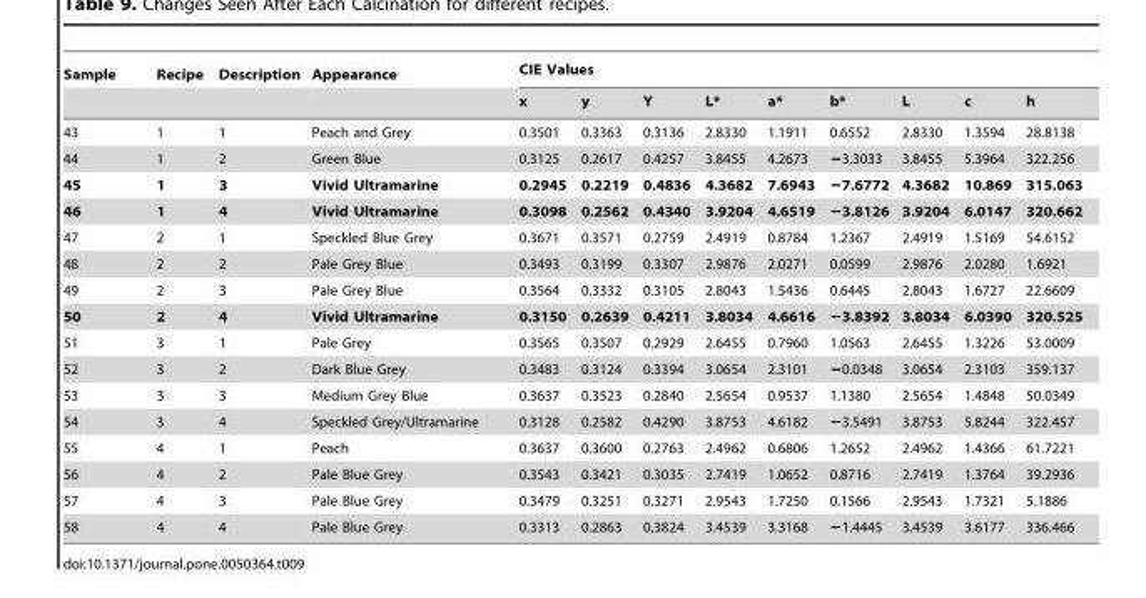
<table><thead><tr><td rowspan="2">Sample</td><td rowspan="2">Recipe</td><td rowspan="2">Description</td><td rowspan="2">Appearance</td><td colspan="9">CIE Values</td></tr><tr><td>x</td><td>y</td><td>Y</td><td>L*</td><td>a*</td><td>b*</td><td>L</td><td>c</td><td>h</td></tr></thead><tbody><tr><td>43</td><td>1</td><td>1</td><td>Peach and Grey</td><td>0.3501</td><td>0.3363</td><td>0.3136</td><td>2.8330</td><td>1.1911</td><td>0.6552</td><td>2.8330</td><td>1.3594</td><td>28.8138</td></tr><tr><td>44</td><td>1</td><td>2</td><td>Green Blue</td><td>0.3125</td><td>0.2617</td><td>0.4257</td><td>3.8455</td><td>4.2673</td><td>−3.3033</td><td>3.8455</td><td>5.3964</td><td>322.256</td></tr><tr><td>45</td><td>1</td><td>3</td><td>Vivid Ultramarine</td><td>0.2945</td><td>0.2219</td><td>0.4836</td><td>4.3682</td><td>7.6943</td><td>−7.6772</td><td>4.3682</td><td>10.869</td><td>315.063</td></tr><tr><td>46</td><td>1</td><td>4</td><td>Vivid Ultramarine</td><td>0.3098</td><td>0.2562</td><td>0.4340</td><td>3.9204</td><td>4.6519</td><td>−3.8126</td><td>3.9204</td><td>6.0147</td><td>320.662</td></tr><tr><td>47</td><td>2</td><td>1</td><td>Speckled Blue Grey</td><td>0.3671</td><td>0.3571</td><td>0.2759</td><td>2.4919</td><td>0.8784</td><td>1.2367</td><td>2.4919</td><td>1.5169</td><td>54.6152</td></tr><tr><td>48</td><td>2</td><td>2</td><td>Pale Grey Blue</td><td>0.3493</td><td>0.3199</td><td>0.3307</td><td>2.9876</td><td>2.0271</td><td>0.0599</td><td>2.9876</td><td>2.0280</td><td>1.6921</td></tr><tr><td>49</td><td>2</td><td>3</td><td>Pale Grey Blue</td><td>0.3564</td><td>0.3332</td><td>0.3105</td><td>2.8043</td><td>1.5436</td><td>0.6445</td><td>2.8043</td><td>1.6727</td><td>22.6609</td></tr><tr><td>50</td><td>2</td><td>4</td><td>Vivid Ultramarine</td><td>0.3150</td><td>0.2639</td><td>0.4211</td><td>3.8034</td><td>4.6616</td><td>−3.8392</td><td>3.8034</td><td>6.0390</td><td>320.525</td></tr><tr><td>51</td><td>3</td><td>1</td><td>Pale Grey</td><td>0.3565</td><td>0.3507</td><td>0.2929</td><td>2.6455</td><td>0.7960</td><td>1.0563</td><td>2.6455</td><td>1.3226</td><td>53.0009</td></tr><tr><td>52</td><td>3</td><td>2</td><td>Dark Blue Grey</td><td>0.3483</td><td>0.3124</td><td>0.3394</td><td>3.0654</td><td>2.3101</td><td>−0.0348</td><td>3.0654</td><td>2.3103</td><td>359.137</td></tr><tr><td>53</td><td>3</td><td>3</td><td>Medium Grey Blue</td><td>0.3637</td><td>0.3523</td><td>0.2840</td><td>2.5654</td><td>0.9537</td><td>1.1380</td><td>2.5654</td><td>1.4848</td><td>50.0349</td></tr><tr><td>54</td><td>3</td><td>4</td><td>Speckled Grey/Ultramarine</td><td>0.3128</td><td>0.2582</td><td>0.4290</td><td>3.8753</td><td>4.6182</td><td>−3.5491</td><td>3.8753</td><td>5.8244</td><td>322.457</td></tr><tr><td>55</td><td>4</td><td>1</td><td>Peach</td><td>0.3637</td><td>0.3600</td><td>0.2763</td><td>2.4962</td><td>0.6806</td><td>1.2652</td><td>2.4962</td><td>1.4366</td><td>61.7221</td></tr><tr><td>56</td><td>4</td><td>2</td><td>Pale Blue Grey</td><td>0.3543</td><td>0.3421</td><td>0.3035</td><td>2.7419</td><td>1.0652</td><td>0.8716</td><td>2.7419</td><td>1.3764</td><td>39.2936</td></tr><tr><td>57</td><td>4</td><td>3</td><td>Pale Blue Grey</td><td>0.3479</td><td>0.3251</td><td>0.3271</td><td>2.9543</td><td>1.7250</td><td>0.1566</td><td>2.9543</td><td>1.7321</td><td>5.1886</td></tr><tr><td>58</td><td>4</td><td>4</td><td>Pale Blue Grey</td><td>0.3313</td><td>0.2863</td><td>0.3824</td><td>3.4539</td><td>3.3168</td><td>−1.4445</td><td>3.4539</td><td>3.6177</td><td>336.466</td></tr></tbody></table>